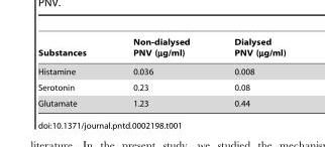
<table><thead><tr><td>Substances</td><td>Non-dialysed PNV (µg/ml)</td><td>Dialysed PNV (µg/ml)</td></tr></thead><tbody><tr><td>Histamine</td><td>0.036</td><td>0.008</td></tr><tr><td>Serotonin</td><td>0.23</td><td>0.08</td></tr><tr><td>Glutamate</td><td>1.23</td><td>0.44</td></tr></tbody></table>